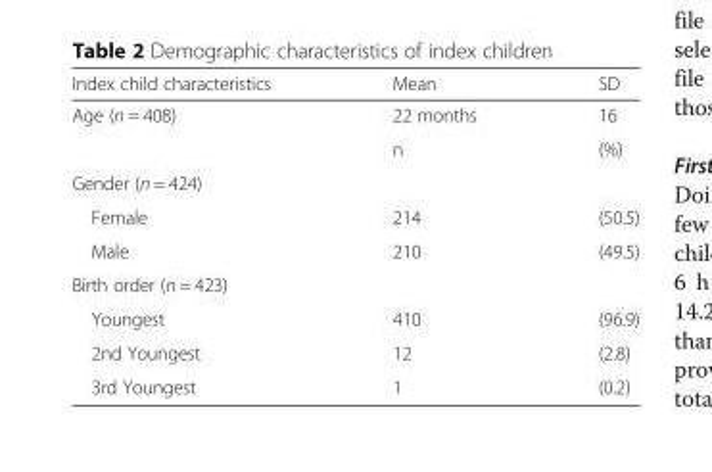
<table><thead><tr><td>Index child characteristics</td><td>Mean</td><td>SD</td></tr></thead><tbody><tr><td rowspan="2">Age (n = 408)</td><td>22 months</td><td>16</td></tr><tr><td>n</td><td>(%)</td></tr><tr><td colspan="3">Gender (n = 424)</td></tr><tr><td>Female</td><td>214</td><td>(50.5)</td></tr><tr><td>Male</td><td>210</td><td>(49.5)</td></tr><tr><td colspan="3">Birth order (n = 423)</td></tr><tr><td>Youngest</td><td>410</td><td>(96.9)</td></tr><tr><td>2nd Youngest</td><td>12</td><td>(2.8)</td></tr><tr><td>3rd Youngest</td><td>1</td><td>(0.2)</td></tr></tbody></table>